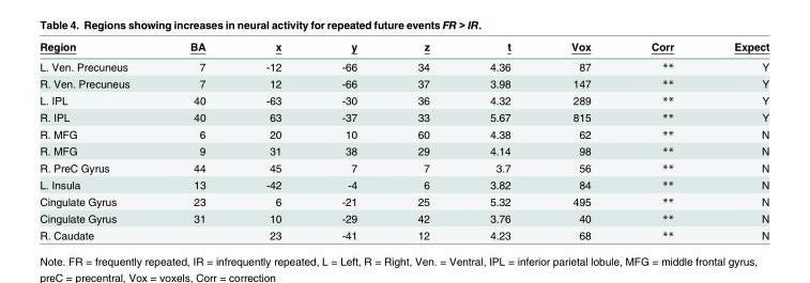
<table><thead><tr><td>Region</td><td>BA</td><td>x</td><td>y</td><td>z</td><td>t</td><td>Vox</td><td>Corr</td><td>Expect</td></tr></thead><tbody><tr><td>L. Ven. Precuneus</td><td>7</td><td>-12</td><td>-66</td><td>34</td><td>4.36</td><td>87</td><td>**</td><td>Y</td></tr><tr><td>R. Ven. Precuneus</td><td>7</td><td>12</td><td>-66</td><td>37</td><td>3.98</td><td>147</td><td>**</td><td>Y</td></tr><tr><td>L. IPL</td><td>40</td><td>-63</td><td>-30</td><td>36</td><td>4.32</td><td>289</td><td>**</td><td>Y</td></tr><tr><td>R. IPL</td><td>40</td><td>63</td><td>-37</td><td>33</td><td>5.67</td><td>815</td><td>**</td><td>Y</td></tr><tr><td>R. MFG</td><td>6</td><td>20</td><td>10</td><td>60</td><td>4.38</td><td>62</td><td>**</td><td>N</td></tr><tr><td>R. MFG</td><td>9</td><td>31</td><td>38</td><td>29</td><td>4.14</td><td>98</td><td>**</td><td>N</td></tr><tr><td>R. PreC Gyrus</td><td>44</td><td>45</td><td>7</td><td>7</td><td>3.7</td><td>56</td><td>**</td><td>N</td></tr><tr><td>L. Insula</td><td>13</td><td>-42</td><td>-4</td><td>6</td><td>3.82</td><td>84</td><td>**</td><td>N</td></tr><tr><td>Cingulate Gyrus</td><td>23</td><td>6</td><td>-21</td><td>25</td><td>5.32</td><td>495</td><td>**</td><td>N</td></tr><tr><td>Cingulate Gyrus</td><td>31</td><td>10</td><td>-29</td><td>42</td><td>3.76</td><td>40</td><td>**</td><td>N</td></tr><tr><td>R. Caudate</td><td></td><td>23</td><td>-41</td><td>12</td><td>4.23</td><td>68</td><td>**</td><td>N</td></tr></tbody></table>